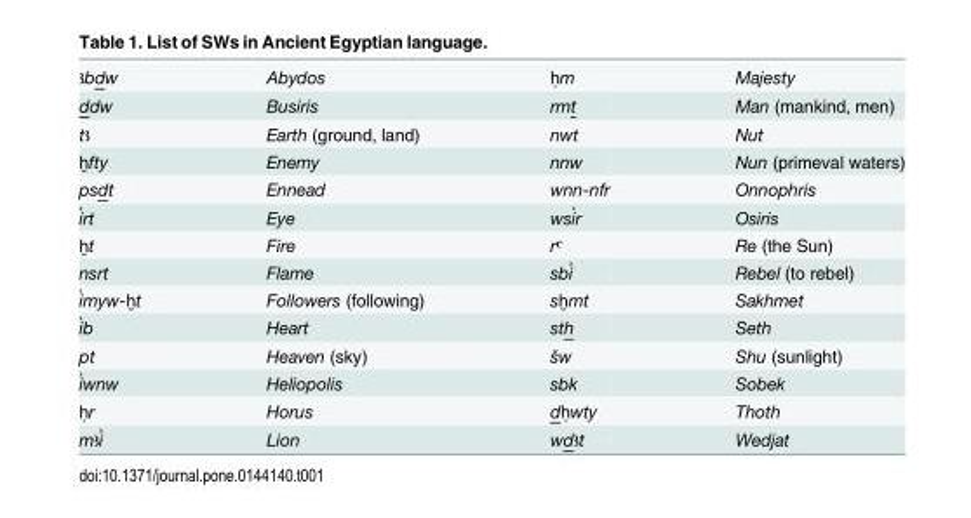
<table><tbody><tr><td>ꜣbdw</td><td>Abydos</td><td>ḥm</td><td>Majesty</td></tr><tr><td>ddw</td><td>Busiris</td><td>rmt</td><td>Man (mankind, men)</td></tr><tr><td>tꜣ</td><td>Earth (ground, land)</td><td>nwt</td><td>Nut</td></tr><tr><td>ḫfty</td><td>Enemy</td><td>nnw</td><td>Nun (primeval waters)</td></tr><tr><td>psdt</td><td>Ennead</td><td>wnn-nfr</td><td>Onnophris</td></tr><tr><td>i͗rt</td><td>Eye</td><td>wsi͗r</td><td>Osiris</td></tr><tr><td>ḫt</td><td>Fire</td><td>rꜥ</td><td>Re (the Sun)</td></tr><tr><td>nsrt</td><td>Flame</td><td>sbi͗</td><td>Rebel (to rebel)</td></tr><tr><td>i͗myw-ḫt</td><td>Followers (following)</td><td>sḫmt</td><td>Sakhmet</td></tr><tr><td>i͗b</td><td>Heart</td><td>sth</td><td>Seth</td></tr><tr><td>pt</td><td>Heaven (sky)</td><td>šw</td><td>Shu (sunlight)</td></tr><tr><td>i͗wnw</td><td>Heliopolis</td><td>sbk</td><td>Sobek</td></tr><tr><td>ḥr</td><td>Horus</td><td>dḥwty</td><td>Thoth</td></tr><tr><td>mꜣi͗</td><td>Lion</td><td>wdꜣt</td><td>Wedjat</td></tr></tbody></table>